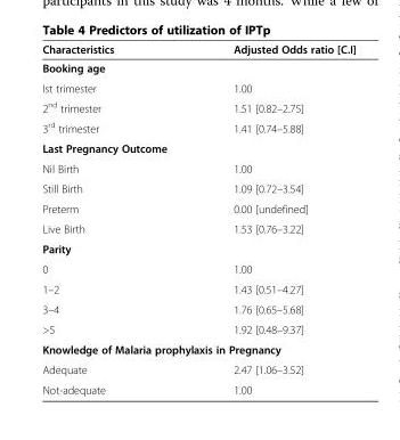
<table><thead><tr><td>Characteristics</td><td>Adjusted Odds ratio [C.I]</td></tr></thead><tbody><tr><td colspan="2">Booking age</td></tr><tr><td>Ist trimester</td><td>1.00</td></tr><tr><td>2<sup>nd</sup> trimester</td><td>1.51 [0.82–2.75]</td></tr><tr><td>3<sup>rd</sup> trimester</td><td>1.41 [0.74–5.88]</td></tr><tr><td colspan="2">Last Pregnancy Outcome</td></tr><tr><td>Nil Birth</td><td>1.00</td></tr><tr><td>Still Birth</td><td>1.09 [0.72–3.54]</td></tr><tr><td>Preterm</td><td>0.00 [undefined]</td></tr><tr><td>Live Birth</td><td>1.53 [0.76–3.22]</td></tr><tr><td colspan="2">Parity</td></tr><tr><td>0</td><td>1.00</td></tr><tr><td>1–2</td><td>1.43 [0.51–4.27]</td></tr><tr><td>3–4</td><td>1.76 [0.65–5.68]</td></tr><tr><td>&gt;5</td><td>1.92 [0.48–9.37]</td></tr><tr><td colspan="2">Knowledge of Malaria prophylaxis in Pregnancy</td></tr><tr><td>Adequate</td><td>2.47 [1.06–3.52]</td></tr><tr><td>Not-adequate</td><td>1.00</td></tr></tbody></table>